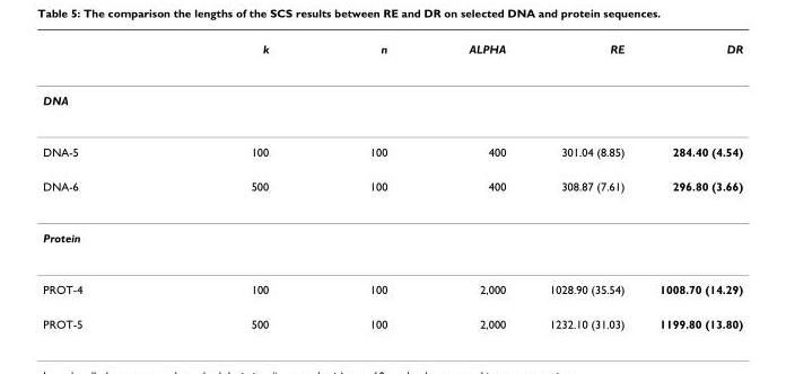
<table><thead><tr><td></td><td>k</td><td>n</td><td>ALPHA</td><td>RE</td><td>DR</td></tr></thead><tbody><tr><td colspan="6">DNA</td></tr><tr><td>DNA-5</td><td>100</td><td>100</td><td>400</td><td>301.04 (8.85)</td><td>284.40 (4.54)</td></tr><tr><td>DNA-6</td><td>500</td><td>100</td><td>400</td><td>308.87 (7.61)</td><td>296.80 (3.66)</td></tr><tr><td colspan="6">Protein</td></tr><tr><td>PROT-4</td><td>100</td><td>100</td><td>2,000</td><td>1028.90 (35.54)</td><td>1008.70 (14.29)</td></tr><tr><td>PROT-5</td><td>500</td><td>100</td><td>2,000</td><td>1232.10 (31.03)</td><td>1199.80 (13.80)</td></tr></tbody></table>